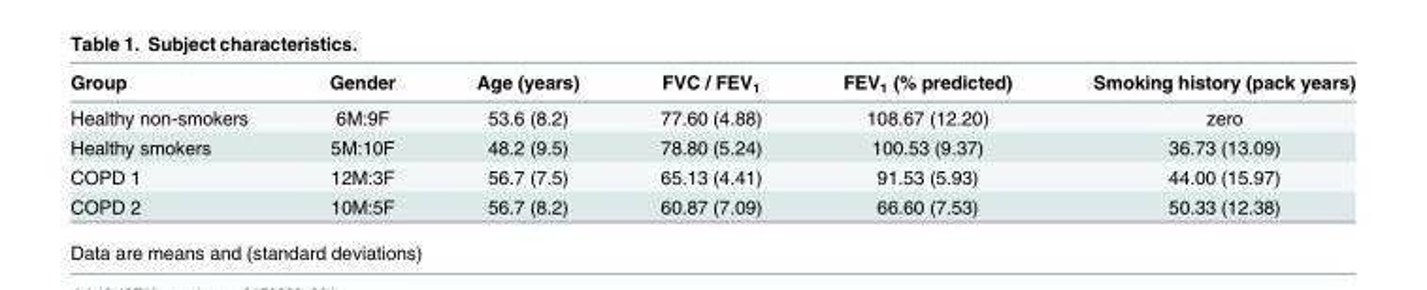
<table><thead><tr><td>Group</td><td>Gender</td><td>Age (years)</td><td>FVC / FEV<sub>1</sub></td><td>FEV<sub>1</sub> (% predicted)</td><td>Smoking history (pack years)</td></tr></thead><tbody><tr><td>Healthy non-smokers</td><td>6M:9F</td><td>53.6 (8.2)</td><td>77.60 (4.88)</td><td>108.67 (12.20)</td><td>zero</td></tr><tr><td>Healthy smokers</td><td>5M:10F</td><td>48.2 (9.5)</td><td>78.80 (5.24)</td><td>100.53 (9.37)</td><td>36.73 (13.09)</td></tr><tr><td>COPD 1</td><td>12M:3F</td><td>56.7 (7.5)</td><td>65.13 (4.41)</td><td>91.53 (5.93)</td><td>44.00 (15.97)</td></tr><tr><td>COPD 2</td><td>10M:5F</td><td>56.7 (8.2)</td><td>60.87 (7.09)</td><td>66.60 (7.53)</td><td>50.33 (12.38)</td></tr></tbody></table>